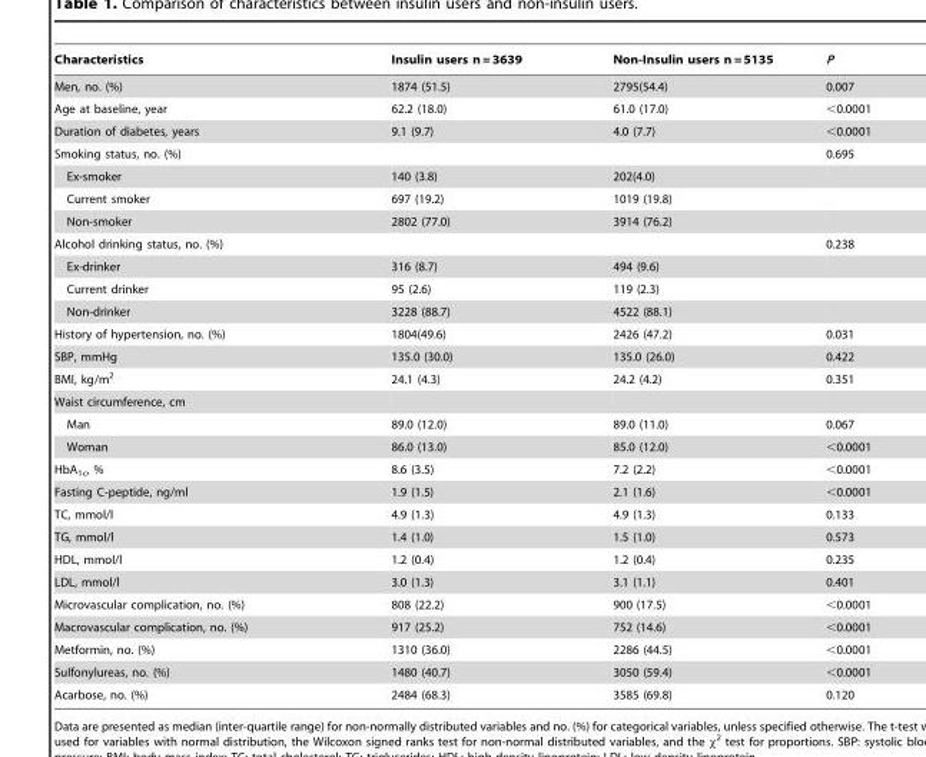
<table><thead><tr><td>Characteristics</td><td>Insulin users n = 3639</td><td>Non-Insulin users n = 5135</td><td>P</td></tr></thead><tbody><tr><td>Men, no. (%)</td><td>1874 (51.5)</td><td>2795(54.4)</td><td>0.007</td></tr><tr><td>Age at baseline, year</td><td>62.2 (18.0)</td><td>61.0 (17.0)</td><td>&lt;0.0001</td></tr><tr><td>Duration of diabetes, years</td><td>9.1 (9.7)</td><td>4.0 (7.7)</td><td>&lt;0.0001</td></tr><tr><td>Smoking status, no. (%)</td><td></td><td></td><td>0.695</td></tr><tr><td>Ex-smoker</td><td>140 (3.8)</td><td>202(4.0)</td><td></td></tr><tr><td>Current smoker</td><td>697 (19.2)</td><td>1019 (19.8)</td><td></td></tr><tr><td>Non-smoker</td><td>2802 (77.0)</td><td>3914 (76.2)</td><td></td></tr><tr><td>Alcohol drinking status, no. (%)</td><td></td><td></td><td>0.238</td></tr><tr><td>Ex-drinker</td><td>316 (8.7)</td><td>494 (9.6)</td><td></td></tr><tr><td>Current drinker</td><td>95 (2.6)</td><td>119 (2.3)</td><td></td></tr><tr><td>Non-drinker</td><td>3228 (88.7)</td><td>4522 (88.1)</td><td></td></tr><tr><td>History of hypertension, no. (%)</td><td>1804(49.6)</td><td>2426 (47.2)</td><td>0.031</td></tr><tr><td>SBP, mmHg</td><td>135.0 (30.0)</td><td>135.0 (26.0)</td><td>0.422</td></tr><tr><td>BMI, kg/m<sup>2</sup></td><td>24.1 (4.3)</td><td>24.2 (4.2)</td><td>0.351</td></tr><tr><td colspan="4">Waist circumference, cm</td></tr><tr><td>Man</td><td>89.0 (12.0)</td><td>89.0 (11.0)</td><td>0.067</td></tr><tr><td>Woman</td><td>86.0 (13.0)</td><td>85.0 (12.0)</td><td>&lt;0.0001</td></tr><tr><td>HbA<sub>1c</sub>, %</td><td>8.6 (3.5)</td><td>7.2 (2.2)</td><td>&lt;0.0001</td></tr><tr><td>Fasting C-peptide, ng/ml</td><td>1.9 (1.5)</td><td>2.1 (1.6)</td><td>&lt;0.0001</td></tr><tr><td>TC, mmol/l</td><td>4.9 (1.3)</td><td>4.9 (1.3)</td><td>0.133</td></tr><tr><td>TG, mmol/l</td><td>1.4 (1.0)</td><td>1.5 (1.0)</td><td>0.573</td></tr><tr><td>HDL, mmol/l</td><td>1.2 (0.4)</td><td>1.2 (0.4)</td><td>0.235</td></tr><tr><td>LDL, mmol/l</td><td>3.0 (1.3)</td><td>3.1 (1.1)</td><td>0.401</td></tr><tr><td>Microvascular complication, no. (%)</td><td>808 (22.2)</td><td>900 (17.5)</td><td>&lt;0.0001</td></tr><tr><td>Macrovascular complication, no. (%)</td><td>917 (25.2)</td><td>752 (14.6)</td><td>&lt;0.0001</td></tr><tr><td>Metformin, no. (%)</td><td>1310 (36.0)</td><td>2286 (44.5)</td><td>&lt;0.0001</td></tr><tr><td>Sulfonylureas, no. (%)</td><td>1480 (40.7)</td><td>3050 (59.4)</td><td>&lt;0.0001</td></tr><tr><td>Acarbose, no. (%)</td><td>2484 (68.3)</td><td>3585 (69.8)</td><td>0.120</td></tr></tbody></table>